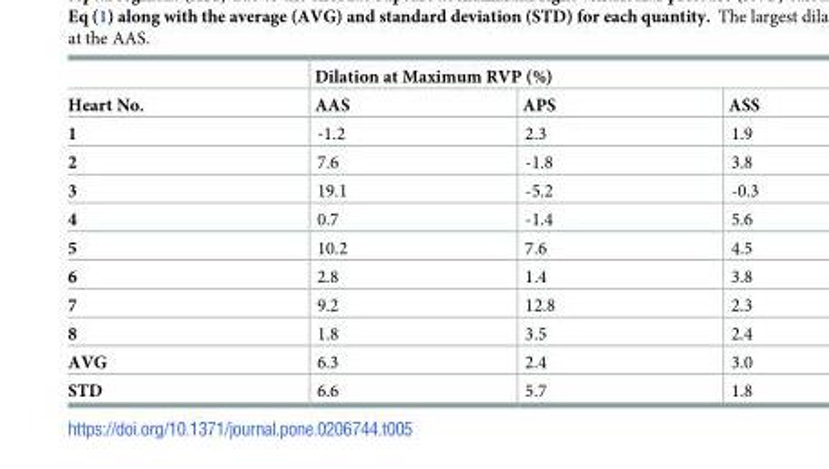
<table><thead><tr><td rowspan="2">Heart No.</td><td colspan="3">Dilation at Maximum RVP (%)</td></tr><tr><td>AAS</td><td>APS</td><td>ASS</td></tr></thead><tbody><tr><td>1</td><td>-1.2</td><td>2.3</td><td>1.9</td></tr><tr><td>2</td><td>7.6</td><td>-1.8</td><td>3.8</td></tr><tr><td>3</td><td>19.1</td><td>-5.2</td><td>-0.3</td></tr><tr><td>4</td><td>0.7</td><td>-1.4</td><td>5.6</td></tr><tr><td>5</td><td>10.2</td><td>7.6</td><td>4.5</td></tr><tr><td>6</td><td>2.8</td><td>1.4</td><td>3.8</td></tr><tr><td>7</td><td>9.2</td><td>12.8</td><td>2.3</td></tr><tr><td>8</td><td>1.8</td><td>3.5</td><td>2.4</td></tr><tr><td>AVG</td><td>6.3</td><td>2.4</td><td>3.0</td></tr><tr><td>STD</td><td>6.6</td><td>5.7</td><td>1.8</td></tr></tbody></table>